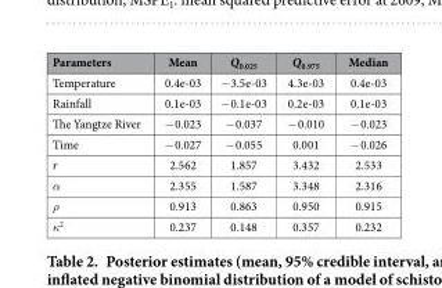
<table><thead><tr><td>Parameters</td><td>Mean</td><td>Q<sub>0.025</sub></td><td>Q<sub>0.975</sub></td><td>Median</td></tr></thead><tbody><tr><td>Temperature</td><td>0.4e-03</td><td>− 3.5e-03</td><td>4.3e-03</td><td>0.4e-03</td></tr><tr><td>Rainfall</td><td>0.1e-03</td><td>− 0.1e-03</td><td>0.2e-03</td><td>0.1e-03</td></tr><tr><td>The Yangtze River</td><td>− 0.023</td><td>− 0.037</td><td>− 0.010</td><td>− 0.023</td></tr><tr><td>Time</td><td>− 0.027</td><td>− 0.055</td><td>0.001</td><td>− 0.026</td></tr><tr><td>r</td><td>2.562</td><td>1.857</td><td>3.432</td><td>2.533</td></tr><tr><td>α</td><td>2.355</td><td>1.587</td><td>3.348</td><td>2.316</td></tr><tr><td>ρ</td><td>0.913</td><td>0.863</td><td>0.950</td><td>0.915</td></tr><tr><td>κ<sup>2</sup></td><td>0.237</td><td>0.148</td><td>0.357</td><td>0.232</td></tr></tbody></table>